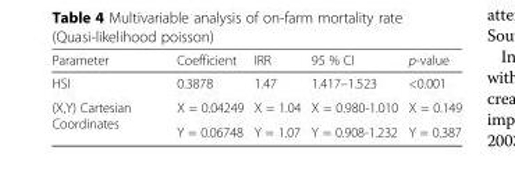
<table><thead><tr><td>Parameter</td><td>Coefficient</td><td>IRR</td><td>95 % CI</td><td>p-value</td></tr></thead><tbody><tr><td>HSI</td><td>0.3878</td><td>1.47</td><td>1.417–1.523</td><td>&lt;0.001</td></tr><tr><td rowspan="2">(X,Y) Cartesian Coordinates</td><td>X = 0.04249</td><td>X = 1.04</td><td>X = 0.980-1.010</td><td>X = 0.149</td></tr><tr><td>Y = 0.06748</td><td>Y = 1.07</td><td>Y = 0.908-1.232</td><td>Y = 0.387</td></tr></tbody></table>